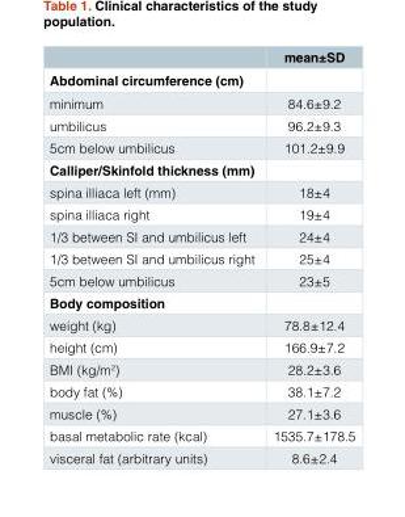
<table><thead><tr><td></td><td>mean±SD</td></tr></thead><tbody><tr><td colspan="2">Abdominal circumference (cm)</td></tr><tr><td>minimum</td><td>84.6±9.2</td></tr><tr><td>umbilicus</td><td>96.2±9.3</td></tr><tr><td>5cm below umbilicus</td><td>101.2±9.9</td></tr><tr><td colspan="2">Calliper/Skinfold thickness (mm)</td></tr><tr><td>spina illiaca left (mm)</td><td>18±4</td></tr><tr><td>spina illiaca right</td><td>19±4</td></tr><tr><td>1/3 between SI and umbilicus left</td><td>24±4</td></tr><tr><td>1/3 between SI and umbilicus right</td><td>25±4</td></tr><tr><td>5cm below umbilicus</td><td>23±5</td></tr><tr><td colspan="2">Body composition</td></tr><tr><td>weight (kg)</td><td>78.8±12.4</td></tr><tr><td>height (cm)</td><td>166.9±7.2</td></tr><tr><td>BMI (kg/m<sup>2</sup>)</td><td>28.2±3.6</td></tr><tr><td>body fat (%)</td><td>38.1±7.2</td></tr><tr><td>muscle (%)</td><td>27.1±3.6</td></tr><tr><td>basal metabolic rate (kcal)</td><td>1535.7±178.5</td></tr><tr><td>visceral fat (arbitrary units)</td><td>8.6±2.4</td></tr></tbody></table>